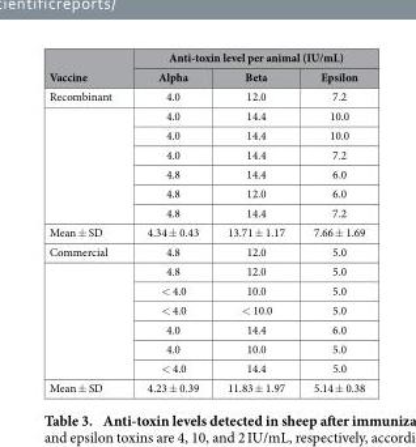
<table><thead><tr><td rowspan="2">Vaccine</td><td colspan="3">Anti-toxin level per animal (IU/mL)</td></tr><tr><td>Alpha</td><td>Beta</td><td>Epsilon</td></tr></thead><tbody><tr><td rowspan="7">Recombinant</td><td>4.0</td><td>12.0</td><td>7.2</td></tr><tr><td>4.0</td><td>14.4</td><td>10.0</td></tr><tr><td>4.0</td><td>14.4</td><td>10.0</td></tr><tr><td>4.0</td><td>14.4</td><td>7.2</td></tr><tr><td>4.8</td><td>14.4</td><td>6.0</td></tr><tr><td>4.8</td><td>12.0</td><td>6.0</td></tr><tr><td>4.8</td><td>14.4</td><td>7.2</td></tr><tr><td>Mean ± SD</td><td>4.34 ± 0.43</td><td>13.71 ± 1.17</td><td>7.66 ± 1.69</td></tr><tr><td rowspan="7">Commercial</td><td>4.8</td><td>12.0</td><td>5.0</td></tr><tr><td>4.8</td><td>12.0</td><td>5.0</td></tr><tr><td>&lt; 4.0</td><td>10.0</td><td>5.0</td></tr><tr><td>&lt; 4.0</td><td>&lt; 10.0</td><td>5.0</td></tr><tr><td>4.0</td><td>14.4</td><td>6.0</td></tr><tr><td>4.0</td><td>10.0</td><td>5.0</td></tr><tr><td>&lt; 4.0</td><td>14.4</td><td>5.0</td></tr><tr><td>Mean ± SD</td><td>4.23 ± 0.39</td><td>11.83 ± 1.97</td><td>5.14 ± 0.38</td></tr></tbody></table>